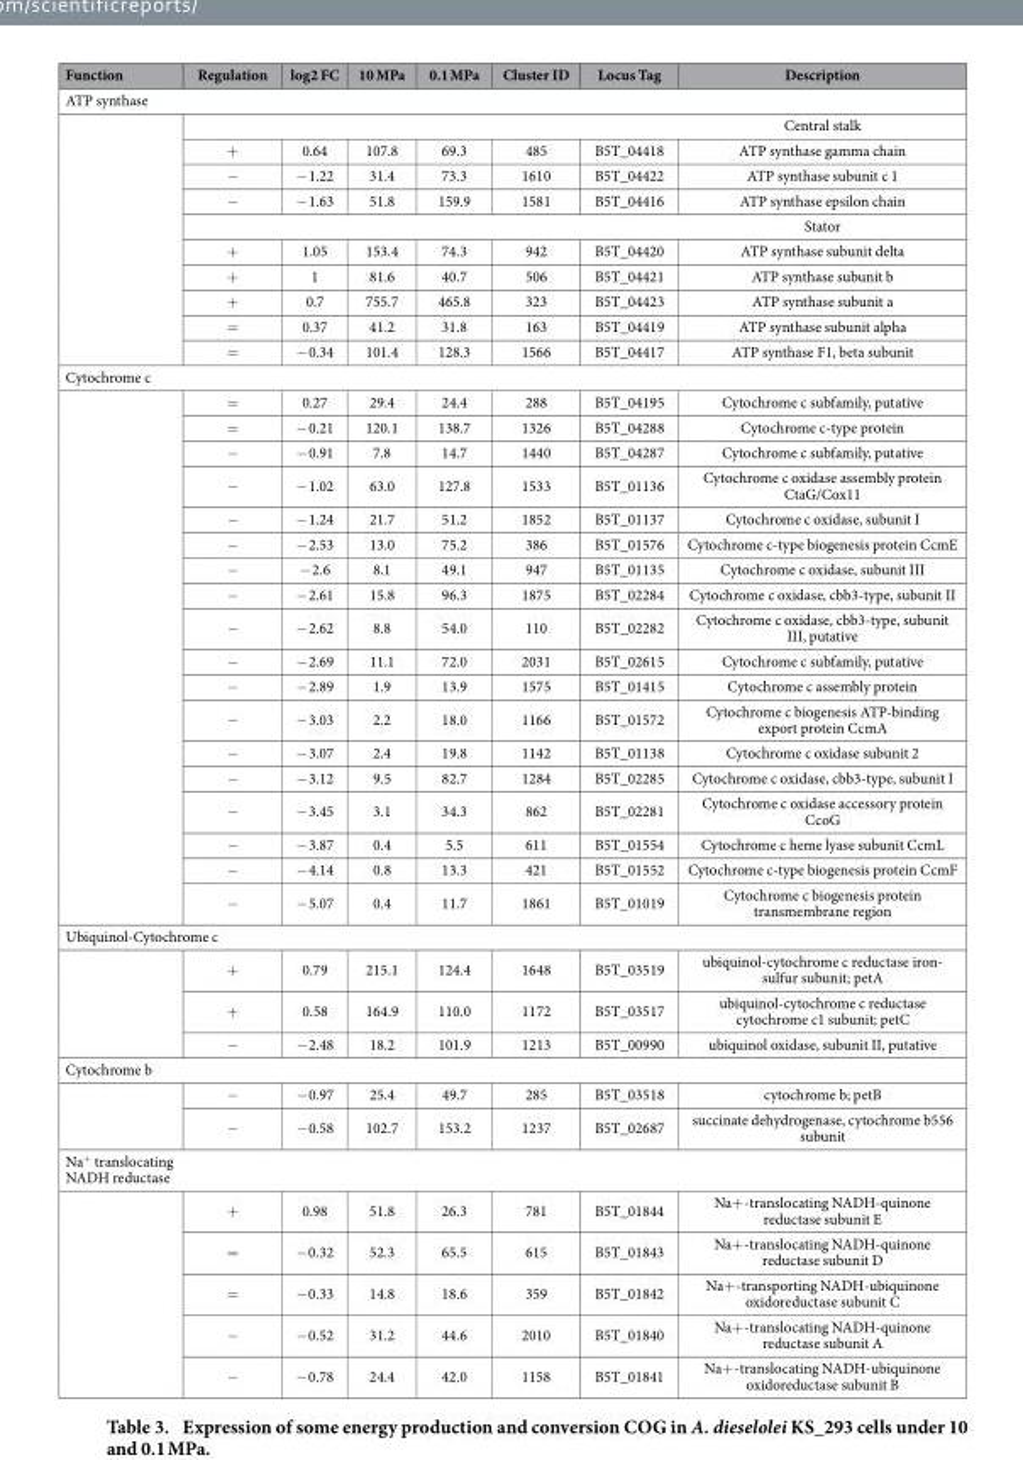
<table><thead><tr><td>Function</td><td>Regulation</td><td>log2 FC</td><td>10 MPa</td><td>0.1 MPa</td><td>Cluster ID</td><td>Locus Tag</td><td>Description</td></tr></thead><tbody><tr><td colspan="8">ATP synthase</td></tr><tr><td rowspan="10"></td><td></td><td></td><td></td><td></td><td></td><td></td><td>Central stalk</td></tr><tr><td>+</td><td>0.64</td><td>107.8</td><td>69.3</td><td>485</td><td>B5T_04418</td><td>ATP synthase gamma chain</td></tr><tr><td>−</td><td>− 1.22</td><td>31.4</td><td>73.3</td><td>1610</td><td>B5T_04422</td><td>ATP synthase subunit c 1</td></tr><tr><td>−</td><td>− 1.63</td><td>51.8</td><td>159.9</td><td>1581</td><td>B5T_04416</td><td>ATP synthase epsilon chain</td></tr><tr><td></td><td></td><td></td><td></td><td></td><td></td><td>Stator</td></tr><tr><td>+</td><td>1.05</td><td>153.4</td><td>74.3</td><td>942</td><td>B5T_04420</td><td>ATP synthase subunit delta</td></tr><tr><td>+</td><td>1</td><td>81.6</td><td>40.7</td><td>506</td><td>B5T_04421</td><td>ATP synthase subunit b</td></tr><tr><td>+</td><td>0.7</td><td>755.7</td><td>465.8</td><td>323</td><td>B5T_04423</td><td>ATP synthase subunit a</td></tr><tr><td>=</td><td>0.37</td><td>41.2</td><td>31.8</td><td>163</td><td>B5T_04419</td><td>ATP synthase subunit alpha</td></tr><tr><td>=</td><td>− 0.34</td><td>101.4</td><td>128.3</td><td>1566</td><td>B5T_04417</td><td>ATP synthase F1, beta subunit</td></tr><tr><td colspan="8">Cytochrome c</td></tr><tr><td rowspan="18"></td><td>=</td><td>0.27</td><td>29.4</td><td>24.4</td><td>288</td><td>B5T_04195</td><td>Cytochrome c subfamily, putative</td></tr><tr><td>=</td><td>− 0.21</td><td>120.1</td><td>138.7</td><td>1326</td><td>B5T_04288</td><td>Cytochrome c-type protein</td></tr><tr><td>−</td><td>− 0.91</td><td>7.8</td><td>14.7</td><td>1440</td><td>B5T_04287</td><td>Cytochrome c subfamily, putative</td></tr><tr><td>−</td><td>− 1.02</td><td>63.0</td><td>127.8</td><td>1533</td><td>B5T_01136</td><td>Cytochrome c oxidase assembly protein CtaG/Cox11</td></tr><tr><td>−</td><td>− 1.24</td><td>21.7</td><td>51.2</td><td>1852</td><td>B5T_01137</td><td>Cytochrome c oxidase, subunit I</td></tr><tr><td>−</td><td>− 2.53</td><td>13.0</td><td>75.2</td><td>386</td><td>B5T_01576</td><td>Cytochrome c-type biogenesis protein CcmE</td></tr><tr><td>−</td><td>− 2.6</td><td>8.1</td><td>49.1</td><td>947</td><td>B5T_01135</td><td>Cytochrome c oxidase, subunit III</td></tr><tr><td>−</td><td>− 2.61</td><td>15.8</td><td>96.3</td><td>1875</td><td>B5T_02284</td><td>Cytochrome c oxidase, cbb3-type, subunit II</td></tr><tr><td>−</td><td>− 2.62</td><td>8.8</td><td>54.0</td><td>110</td><td>B5T_02282</td><td>Cytochrome c oxidase, cbb3-type, subunit III, putative</td></tr><tr><td>−</td><td>− 2.69</td><td>11.1</td><td>72.0</td><td>2031</td><td>B5T_02615</td><td>Cytochrome c subfamily, putative</td></tr><tr><td>−</td><td>− 2.89</td><td>1.9</td><td>13.9</td><td>1575</td><td>B5T_01415</td><td>Cytochrome c assembly protein</td></tr><tr><td>−</td><td>− 3.03</td><td>2.2</td><td>18.0</td><td>1166</td><td>B5T_01572</td><td>Cytochrome c biogenesis ATP-binding export protein CcmA</td></tr><tr><td>−</td><td>− 3.07</td><td>2.4</td><td>19.8</td><td>1142</td><td>B5T_01138</td><td>Cytochrome c oxidase subunit 2</td></tr><tr><td>−</td><td>− 3.12</td><td>9.5</td><td>82.7</td><td>1284</td><td>B5T_02285</td><td>Cytochrome c oxidase, cbb3-type, subunit I</td></tr><tr><td>−</td><td>− 3.45</td><td>3.1</td><td>34.3</td><td>862</td><td>B5T_02281</td><td>Cytochrome c oxidase accessory protein CcoG</td></tr><tr><td>−</td><td>− 3.87</td><td>0.4</td><td>5.5</td><td>611</td><td>B5T_01554</td><td>Cytochrome c heme lyase subunit CcmL</td></tr><tr><td>−</td><td>− 4.14</td><td>0.8</td><td>13.3</td><td>421</td><td>B5T_01552</td><td>Cytochrome c-type biogenesis protein CcmF</td></tr><tr><td>−</td><td>− 5.07</td><td>0.4</td><td>11.7</td><td>1861</td><td>B5T_01019</td><td>Cytochrome c biogenesis protein transmembrane region</td></tr><tr><td colspan="8">Ubiquinol-Cytochrome c</td></tr><tr><td rowspan="3"></td><td>+</td><td>0.79</td><td>215.1</td><td>124.4</td><td>1648</td><td>B5T_03519</td><td>ubiquinol-cytochrome c reductase iron- sulfur subunit; petA</td></tr><tr><td>+</td><td>0.58</td><td>164.9</td><td>110.0</td><td>1172</td><td>B5T_03517</td><td>ubiquinol-cytochrome c reductase cytochrome c1 subunit; petC</td></tr><tr><td>−</td><td>− 2.48</td><td>18.2</td><td>101.9</td><td>1213</td><td>B5T_00990</td><td>ubiquinol oxidase, subunit II, putative</td></tr><tr><td colspan="8">Cytochrome b</td></tr><tr><td rowspan="2"></td><td>−</td><td>− 0.97</td><td>25.4</td><td>49.7</td><td>285</td><td>B5T_03518</td><td>cytochrome b; petB</td></tr><tr><td>−</td><td>− 0.58</td><td>102.7</td><td>153.2</td><td>1237</td><td>B5T_02687</td><td>succinate dehydrogenase, cytochrome b556 subunit</td></tr><tr><td colspan="8">Na+ translocating NADH reductase</td></tr><tr><td rowspan="5"></td><td>+</td><td>0.98</td><td>51.8</td><td>26.3</td><td>781</td><td>B5T_01844</td><td>Na+ -translocating NADH-quinone reductase subunit E</td></tr><tr><td>=</td><td>− 0.32</td><td>52.3</td><td>65.5</td><td>615</td><td>B5T_01843</td><td>Na+ -translocating NADH-quinone reductase subunit D</td></tr><tr><td>=</td><td>− 0.33</td><td>14.8</td><td>18.6</td><td>359</td><td>B5T_01842</td><td>Na+ -transporting NADH-ubiquinone oxidoreductase subunit C</td></tr><tr><td>−</td><td>− 0.52</td><td>31.2</td><td>44.6</td><td>2010</td><td>B5T_01840</td><td>Na+ -translocating NADH-quinone reductase subunit A</td></tr><tr><td>−</td><td>− 0.78</td><td>24.4</td><td>42.0</td><td>1158</td><td>B5T_01841</td><td>Na+ -translocating NADH-ubiquinone oxidoreductase subunit B</td></tr></tbody></table>